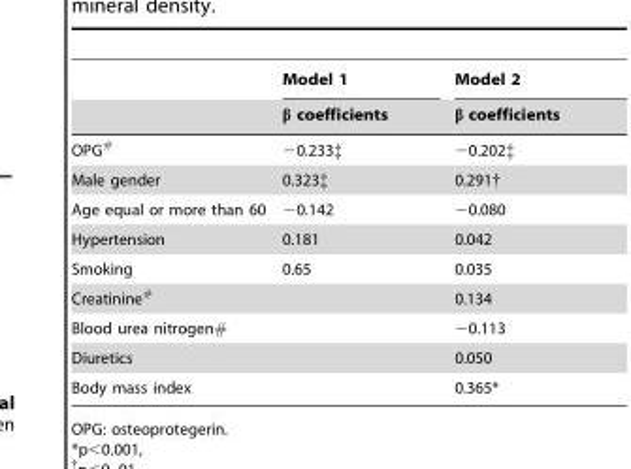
<table><thead><tr><td rowspan="2"></td><td rowspan="2">Model 1 β coefficients</td><td rowspan="2">Model 2 β coefficients</td></tr><tr></tr></thead><tbody><tr><td>OPG#</td><td>−0.233‡</td><td>−0.202‡</td></tr><tr><td>Male gender</td><td>0.323‡</td><td>0.291†</td></tr><tr><td>Age equal or more than 60</td><td>−0.142</td><td>−0.080</td></tr><tr><td>Hypertension</td><td>0.181</td><td>0.042</td></tr><tr><td>Smoking</td><td>0.65</td><td>0.035</td></tr><tr><td>Creatinine#</td><td></td><td>0.134</td></tr><tr><td>Blood urea nitrogen#</td><td></td><td>−0.113</td></tr><tr><td>Diuretics</td><td></td><td>0.050</td></tr><tr><td>Body mass index</td><td></td><td>0.365*</td></tr></tbody></table>